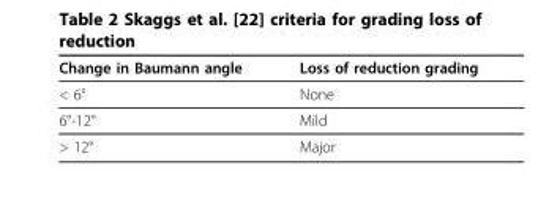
<table><thead><tr><td>Change in Baumann angle</td><td>Loss of reduction grading</td></tr></thead><tbody><tr><td>&lt; 6°</td><td>None</td></tr><tr><td>6°-12°</td><td>Mild</td></tr><tr><td>&gt; 12°</td><td>Major</td></tr></tbody></table>